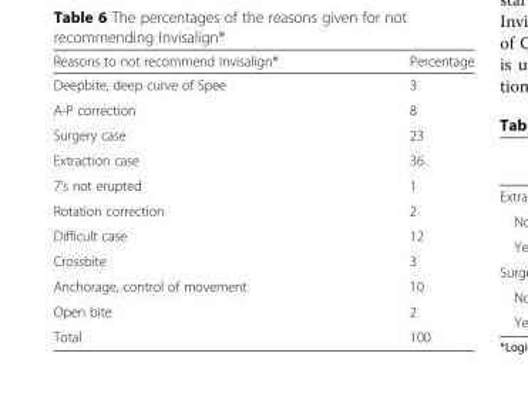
<table><thead><tr><td>Reasons to not recommend Invisalign®</td><td>Percentage</td></tr></thead><tbody><tr><td>Deepbite, deep curve of Spee</td><td>3</td></tr><tr><td>A-P correction</td><td>8</td></tr><tr><td>Surgery case</td><td>23</td></tr><tr><td>Extraction case</td><td>36</td></tr><tr><td>7’s not erupted</td><td>1</td></tr><tr><td>Rotation correction</td><td>2</td></tr><tr><td>Difficult case</td><td>12</td></tr><tr><td>Crossbite</td><td>3</td></tr><tr><td>Anchorage, control of movement</td><td>10</td></tr><tr><td>Open bite</td><td>2</td></tr><tr><td>Total</td><td>100</td></tr></tbody></table>